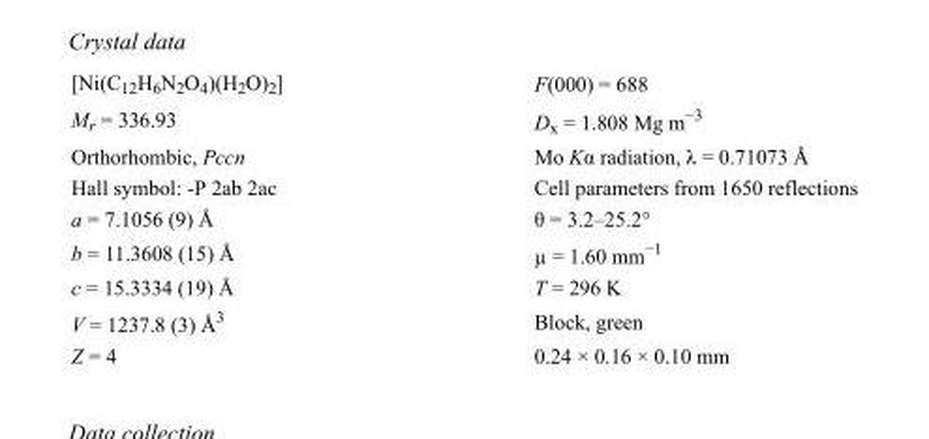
<table><tbody><tr><td>[Ni(C<sub>12</sub>H<sub>6</sub>N<sub>2</sub>O<sub>4</sub>)(H<sub>2</sub>O)<sub>2</sub>]</td><td>F(000) = 688</td></tr><tr><td>M<sub>r</sub> = 336.93</td><td>D<sub>x</sub> = 1.808 Mg m<sup>−3</sup></td></tr><tr><td>Orthorhombic, Pccn</td><td>Mo Kα radiation, λ = 0.71073 Å</td></tr><tr><td>Hall symbol: -P 2ab 2ac</td><td>Cell parameters from 1650 reflections</td></tr><tr><td>a = 7.1056 (9) Å</td><td>θ = 3.2–25.2°</td></tr><tr><td>b = 11.3608 (15) Å</td><td>µ = 1.60 mm<sup>−1</sup></td></tr><tr><td>c = 15.3334 (19) Å</td><td>T = 296 K</td></tr><tr><td>V = 1237.8 (3) Å<sup>3</sup></td><td>Block, green</td></tr><tr><td>Z = 4</td><td>0.24 × 0.16 × 0.10 mm</td></tr></tbody></table>